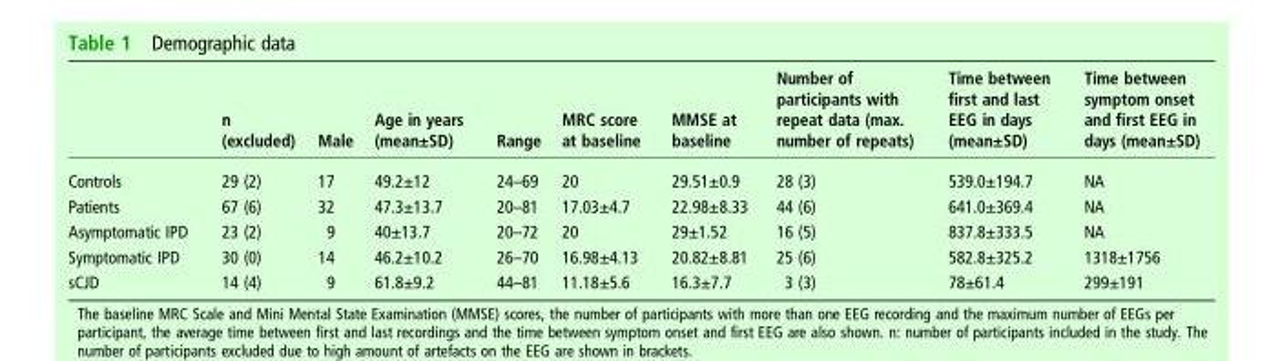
<table><thead><tr><td></td><td>n (excluded)</td><td>Male</td><td>Age in years (mean±SD)</td><td>Range</td><td>MRC score at baseline</td><td>MMSE at baseline</td><td>Number of participants with repeat data (max. number of repeats)</td><td>Time between first and last EEG in days (mean±SD)</td><td>Time between symptom onset and first EEG in days (mean±SD)</td></tr></thead><tbody><tr><td>Controls</td><td>29 (2)</td><td>17</td><td>49.2±12</td><td>24–69</td><td>20</td><td>29.51±0.9</td><td>28 (3)</td><td>539.0±194.7</td><td>NA</td></tr><tr><td>Patients</td><td>67 (6)</td><td>32</td><td>47.3±13.7</td><td>20–81</td><td>17.03±4.7</td><td>22.98±8.33</td><td>44 (6)</td><td>641.0±369.4</td><td>NA</td></tr><tr><td>Asymptomatic IPD</td><td>23 (2)</td><td>9</td><td>40±13.7</td><td>20–72</td><td>20</td><td>29±1.52</td><td>16 (5)</td><td>837.8±333.5</td><td>NA</td></tr><tr><td>Symptomatic IPD</td><td>30 (0)</td><td>14</td><td>46.2±10.2</td><td>26–70</td><td>16.98±4.13</td><td>20.82±8.81</td><td>25 (6)</td><td>582.8±325.2</td><td>1318±1756</td></tr><tr><td>sCJD</td><td>14 (4)</td><td>9</td><td>61.8±9.2</td><td>44–81</td><td>11.18±5.6</td><td>16.3±7.7</td><td>3 (3)</td><td>78±61.4</td><td>299±191</td></tr></tbody></table>